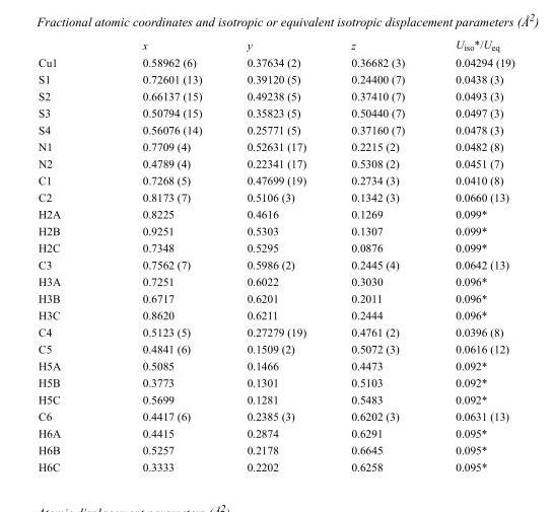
<table><thead><tr><td></td><td>x</td><td>y</td><td>z</td><td>U<sub>iso</sub>*/U<sub>eq</sub></td></tr></thead><tbody><tr><td>Cu1</td><td>0.58962 (6)</td><td>0.37634 (2)</td><td>0.36682 (3)</td><td>0.04294 (19)</td></tr><tr><td>S1</td><td>0.72601 (13)</td><td>0.39120 (5)</td><td>0.24400 (7)</td><td>0.0438 (3)</td></tr><tr><td>S2</td><td>0.66137 (15)</td><td>0.49238 (5)</td><td>0.37410 (7)</td><td>0.0493 (3)</td></tr><tr><td>S3</td><td>0.50794 (15)</td><td>0.35823 (5)</td><td>0.50440 (7)</td><td>0.0497 (3)</td></tr><tr><td>S4</td><td>0.56076 (14)</td><td>0.25771 (5)</td><td>0.37160 (7)</td><td>0.0478 (3)</td></tr><tr><td>N1</td><td>0.7709 (4)</td><td>0.52631 (17)</td><td>0.2215 (2)</td><td>0.0482 (8)</td></tr><tr><td>N2</td><td>0.4789 (4)</td><td>0.22341 (17)</td><td>0.5308 (2)</td><td>0.0451 (7)</td></tr><tr><td>C1</td><td>0.7268 (5)</td><td>0.47699 (19)</td><td>0.2734 (3)</td><td>0.0410 (8)</td></tr><tr><td>C2</td><td>0.8173 (7)</td><td>0.5106 (3)</td><td>0.1342 (3)</td><td>0.0660 (13)</td></tr><tr><td>H2A</td><td>0.8225</td><td>0.4616</td><td>0.1269</td><td>0.099*</td></tr><tr><td>H2B</td><td>0.9251</td><td>0.5303</td><td>0.1307</td><td>0.099*</td></tr><tr><td>H2C</td><td>0.7348</td><td>0.5295</td><td>0.0876</td><td>0.099*</td></tr><tr><td>C3</td><td>0.7562 (7)</td><td>0.5986 (2)</td><td>0.2445 (4)</td><td>0.0642 (13)</td></tr><tr><td>H3A</td><td>0.7251</td><td>0.6022</td><td>0.3030</td><td>0.096*</td></tr><tr><td>H3B</td><td>0.6717</td><td>0.6201</td><td>0.2011</td><td>0.096*</td></tr><tr><td>H3C</td><td>0.8620</td><td>0.6211</td><td>0.2444</td><td>0.096*</td></tr><tr><td>C4</td><td>0.5123 (5)</td><td>0.27279 (19)</td><td>0.4761 (2)</td><td>0.0396 (8)</td></tr><tr><td>C5</td><td>0.4841 (6)</td><td>0.1509 (2)</td><td>0.5072 (3)</td><td>0.0616 (12)</td></tr><tr><td>H5A</td><td>0.5085</td><td>0.1466</td><td>0.4473</td><td>0.092*</td></tr><tr><td>H5B</td><td>0.3773</td><td>0.1301</td><td>0.5103</td><td>0.092*</td></tr><tr><td>H5C</td><td>0.5699</td><td>0.1281</td><td>0.5483</td><td>0.092*</td></tr><tr><td>C6</td><td>0.4417 (6)</td><td>0.2385 (3)</td><td>0.6202 (3)</td><td>0.0631 (13)</td></tr><tr><td>H6A</td><td>0.4415</td><td>0.2874</td><td>0.6291</td><td>0.095*</td></tr><tr><td>H6B</td><td>0.5257</td><td>0.2178</td><td>0.6645</td><td>0.095*</td></tr><tr><td>H6C</td><td>0.3333</td><td>0.2202</td><td>0.6258</td><td>0.095*</td></tr></tbody></table>